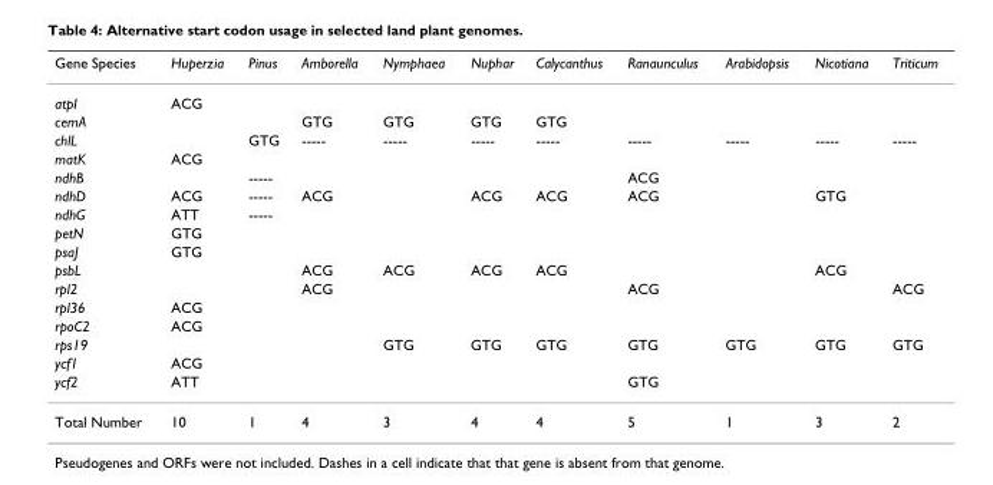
<table><thead><tr><td>Gene Species</td><td>Huperzia</td><td>Pinus</td><td>Amborella</td><td>Nymphaea</td><td>Nuphar</td><td>Calycanthus</td><td>Ranaunculus</td><td>Arabidopsis</td><td>Nicotiana</td><td>Triticum</td></tr></thead><tbody><tr><td>atpI</td><td>ACG</td><td></td><td></td><td></td><td></td><td></td><td></td><td></td><td></td><td></td></tr><tr><td>cemA</td><td></td><td></td><td>GTG</td><td>GTG</td><td>GTG</td><td>GTG</td><td></td><td></td><td></td><td></td></tr><tr><td>chlL</td><td></td><td>GTG</td><td>-----</td><td>-----</td><td>-----</td><td>-----</td><td>-----</td><td>-----</td><td>-----</td><td>-----</td></tr><tr><td>matK</td><td>ACG</td><td></td><td></td><td></td><td></td><td></td><td></td><td></td><td></td><td></td></tr><tr><td>ndhB</td><td></td><td>-----</td><td></td><td></td><td></td><td></td><td>ACG</td><td></td><td></td><td></td></tr><tr><td>ndhD</td><td>ACG</td><td>-----</td><td>ACG</td><td></td><td>ACG</td><td>ACG</td><td>ACG</td><td></td><td>GTG</td><td></td></tr><tr><td>ndhG</td><td>ATT</td><td>-----</td><td></td><td></td><td></td><td></td><td></td><td></td><td></td><td></td></tr><tr><td>petN</td><td>GTG</td><td></td><td></td><td></td><td></td><td></td><td></td><td></td><td></td><td></td></tr><tr><td>psaJ</td><td>GTG</td><td></td><td></td><td></td><td></td><td></td><td></td><td></td><td></td><td></td></tr><tr><td>psbL</td><td></td><td></td><td>ACG</td><td>ACG</td><td>ACG</td><td>ACG</td><td></td><td></td><td>ACG</td><td></td></tr><tr><td>rpl2</td><td></td><td></td><td>ACG</td><td></td><td></td><td></td><td>ACG</td><td></td><td></td><td>ACG</td></tr><tr><td>rpl36</td><td>ACG</td><td></td><td></td><td></td><td></td><td></td><td></td><td></td><td></td><td></td></tr><tr><td>rpoC2</td><td>ACG</td><td></td><td></td><td></td><td></td><td></td><td></td><td></td><td></td><td></td></tr><tr><td>rps19</td><td></td><td></td><td></td><td>GTG</td><td>GTG</td><td>GTG</td><td>GTG</td><td>GTG</td><td>GTG</td><td>GTG</td></tr><tr><td>ycf1</td><td>ACG</td><td></td><td></td><td></td><td></td><td></td><td></td><td></td><td></td><td></td></tr><tr><td>ycf2</td><td>ATT</td><td></td><td></td><td></td><td></td><td></td><td>GTG</td><td></td><td></td><td></td></tr><tr><td>Total Number</td><td>10</td><td>1</td><td>4</td><td>3</td><td>4</td><td>4</td><td>5</td><td>1</td><td>3</td><td>2</td></tr></tbody></table>